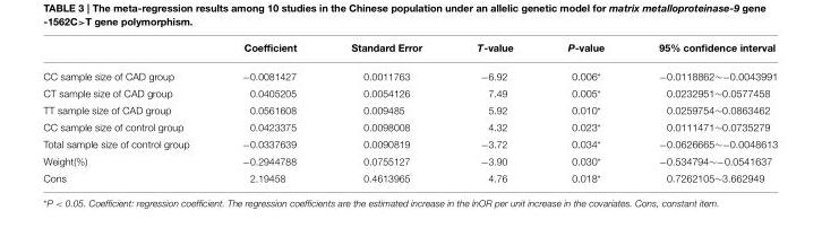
<table><thead><tr><td></td><td>Coefficient</td><td>Standard Error</td><td>T-value</td><td>P-value</td><td>95% confidence interval</td></tr></thead><tbody><tr><td>CC sample size of CAD group</td><td>−0.0081427</td><td>0.0011763</td><td>−6.92</td><td>0.006*</td><td>−0.0118862∼−0.0043991</td></tr><tr><td>CT sample size of CAD group</td><td>0.0405205</td><td>0.0054126</td><td>7.49</td><td>0.005*</td><td>0.0232951∼0.0577458</td></tr><tr><td>TT sample size of CAD group</td><td>0.0561608</td><td>0.009485</td><td>5.92</td><td>0.010*</td><td>0.0259754∼0.0863462</td></tr><tr><td>CC sample size of control group</td><td>0.0423375</td><td>0.0098008</td><td>4.32</td><td>0.023*</td><td>0.0111471∼0.0735279</td></tr><tr><td>Total sample size of control group</td><td>−0.0337639</td><td>0.0090819</td><td>−3.72</td><td>0.034*</td><td>−0.0626665∼−0.0048613</td></tr><tr><td>Weight(%)</td><td>−0.2944788</td><td>0.0755127</td><td>−3.90</td><td>0.030*</td><td>−0.534794∼−0.0541637</td></tr><tr><td>Cons</td><td>2.19458</td><td>0.4613965</td><td>4.76</td><td>0.018*</td><td>0.7262105∼3.662949</td></tr></tbody></table>